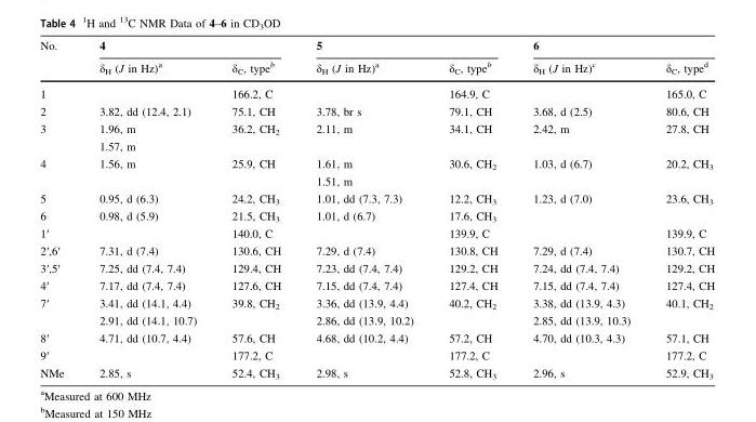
<table><thead><tr><td rowspan="2">No.</td><td colspan="2">4</td><td colspan="2">5</td><td colspan="2">6</td></tr><tr><td>δ<sub>H</sub> (J in Hz)<sup>a</sup></td><td>δ<sub>C</sub>, type<sup>b</sup></td><td>δ<sub>H</sub> (J in Hz)<sup>a</sup></td><td>δ<sub>C</sub>, type<sup>b</sup></td><td>δ<sub>H</sub> (J in Hz)<sup>c</sup></td><td>δ<sub>C</sub>, type<sup>d</sup></td></tr></thead><tbody><tr><td>1</td><td></td><td>166.2, C</td><td></td><td>164.9, C</td><td></td><td>165.0, C</td></tr><tr><td>2</td><td>3.82, dd (12.4, 2.1)</td><td>75.1, CH</td><td>3.78, br s</td><td>79.1, CH</td><td>3.68, d (2.5)</td><td>80.6, CH</td></tr><tr><td>3</td><td>1.96, m 1.57, m</td><td>36.2, CH<sub>2</sub></td><td>2.11, m</td><td>34.1, CH</td><td>2.42, m</td><td>27.8, CH</td></tr><tr><td>4</td><td>1.56, m</td><td>25.9, CH</td><td>1.61, m 1.51, m</td><td>30.6, CH<sub>2</sub></td><td>1.03, d (6.7)</td><td>20.2, CH<sub>3</sub></td></tr><tr><td>5</td><td>0.95, d (6.3)</td><td>24.2, CH<sub>3</sub></td><td>1.01, dd (7.3, 7.3)</td><td>12.2, CH<sub>3</sub></td><td>1.23, d (7.0)</td><td>23.6, CH<sub>3</sub></td></tr><tr><td>6</td><td>0.98, d (5.9)</td><td>21.5, CH<sub>3</sub></td><td>1.01, d (6.7)</td><td>17.6, CH<sub>3</sub></td><td></td><td></td></tr><tr><td>1′</td><td></td><td>140.0, C</td><td></td><td>139.9, C</td><td></td><td>139.9, C</td></tr><tr><td>2′,6′</td><td>7.31, d (7.4)</td><td>130.6, CH</td><td>7.29, d (7.4)</td><td>130.8, CH</td><td>7.29, d (7.4)</td><td>130.7, CH</td></tr><tr><td>3′,5′</td><td>7.25, dd (7.4, 7.4)</td><td>129.4, CH</td><td>7.23, dd (7.4, 7.4)</td><td>129.2, CH</td><td>7.24, dd (7.4, 7.4)</td><td>129.2, CH</td></tr><tr><td>4′</td><td>7.17, dd (7.4, 7.4)</td><td>127.6, CH</td><td>7.15, dd (7.4, 7.4)</td><td>127.4, CH</td><td>7.15, dd (7.4, 7.4)</td><td>127.4, CH</td></tr><tr><td>7′</td><td>3.41, dd (14.1, 4.4) 2.91, dd (14.1, 10.7)</td><td>39.8, CH<sub>2</sub></td><td>3.36, dd (13.9, 4.4) 2.86, dd (13.9, 10.2)</td><td>40.2, CH<sub>2</sub></td><td>3.38, dd (13.9, 4.3) 2.85, dd (13.9, 10.3)</td><td>40.1, CH<sub>2</sub></td></tr><tr><td>8′</td><td>4.71, dd (10.7, 4.4)</td><td>57.6, CH</td><td>4.68, dd (10.2, 4.4)</td><td>57.2, CH</td><td>4.70, dd (10.3, 4.3)</td><td>57.1, CH</td></tr><tr><td>9′</td><td></td><td>177.2, C</td><td></td><td>177.2, C</td><td></td><td>177.2, C</td></tr><tr><td>NMe</td><td>2.85, s</td><td>52.4, CH<sub>3</sub></td><td>2.98, s</td><td>52.8, CH<sub>3</sub></td><td>2.96, s</td><td>52.9, CH<sub>3</sub></td></tr></tbody></table>